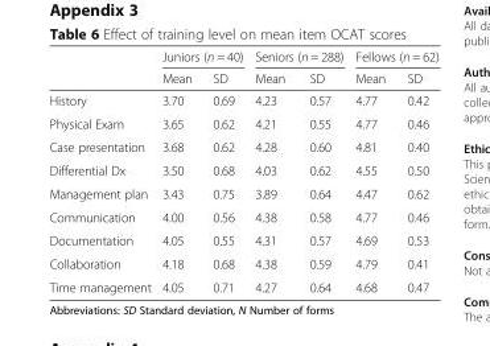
<table><thead><tr><td rowspan="2"></td><td colspan="2">Juniors (n = 40)</td><td colspan="2">Seniors (n = 288)</td><td colspan="2">Fellows (n = 62)</td></tr><tr><td>Mean</td><td>SD</td><td>Mean</td><td>SD</td><td>Mean</td><td>SD</td></tr></thead><tbody><tr><td>History</td><td>3.70</td><td>0.69</td><td>4.23</td><td>0.57</td><td>4.77</td><td>0.42</td></tr><tr><td>Physical Exam</td><td>3.65</td><td>0.62</td><td>4.21</td><td>0.55</td><td>4.77</td><td>0.46</td></tr><tr><td>Case presentation</td><td>3.68</td><td>0.62</td><td>4.28</td><td>0.60</td><td>4.81</td><td>0.40</td></tr><tr><td>Differential Dx</td><td>3.50</td><td>0.68</td><td>4.03</td><td>0.62</td><td>4.55</td><td>0.50</td></tr><tr><td>Management plan</td><td>3.43</td><td>0.75</td><td>3.89</td><td>0.64</td><td>4.47</td><td>0.62</td></tr><tr><td>Communication</td><td>4.00</td><td>0.56</td><td>4.38</td><td>0.58</td><td>4.77</td><td>0.46</td></tr><tr><td>Documentation</td><td>4.05</td><td>0.55</td><td>4.31</td><td>0.57</td><td>4.69</td><td>0.53</td></tr><tr><td>Collaboration</td><td>4.18</td><td>0.68</td><td>4.38</td><td>0.59</td><td>4.79</td><td>0.41</td></tr><tr><td>Time management</td><td>4.05</td><td>0.71</td><td>4.27</td><td>0.64</td><td>4.68</td><td>0.47</td></tr></tbody></table>